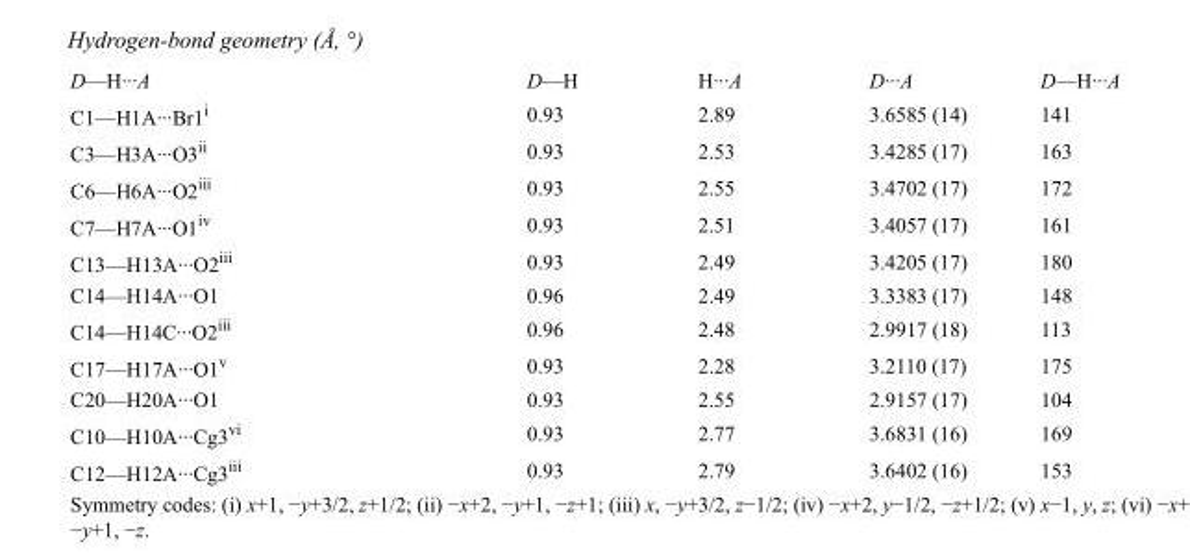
<table><tbody><tr><td>D—H···A</td><td>D—H</td><td>H···A</td><td>D···A</td><td>D—H···A</td></tr><tr><td>C1—H1A···Br1<sup>i</sup></td><td>0.93</td><td>2.89</td><td>3.6585 (14)</td><td>141</td></tr><tr><td>C3—H3A···O3<sup>ii</sup></td><td>0.93</td><td>2.53</td><td>3.4285 (17)</td><td>163</td></tr><tr><td>C6—H6A···O2<sup>iii</sup></td><td>0.93</td><td>2.55</td><td>3.4702 (17)</td><td>172</td></tr><tr><td>C7—H7A···O1<sup>iv</sup></td><td>0.93</td><td>2.51</td><td>3.4057 (17)</td><td>161</td></tr><tr><td>C13—H13A···O2<sup>iii</sup></td><td>0.93</td><td>2.49</td><td>3.4205 (17)</td><td>180</td></tr><tr><td>C14—H14A···O1</td><td>0.96</td><td>2.49</td><td>3.3383 (17)</td><td>148</td></tr><tr><td>C14—H14C···O2<sup>iii</sup></td><td>0.96</td><td>2.48</td><td>2.9917 (18)</td><td>113</td></tr><tr><td>C17—H17A···O1<sup>v</sup></td><td>0.93</td><td>2.28</td><td>3.2110 (17)</td><td>175</td></tr><tr><td>C20—H20A···O1</td><td>0.93</td><td>2.55</td><td>2.9157 (17)</td><td>104</td></tr><tr><td>C10—H10A···Cg3<sup>vi</sup></td><td>0.93</td><td>2.77</td><td>3.6831 (16)</td><td>169</td></tr><tr><td>C12—H12A···Cg3<sup>iii</sup></td><td>0.93</td><td>2.79</td><td>3.6402 (16)</td><td>153</td></tr></tbody></table>